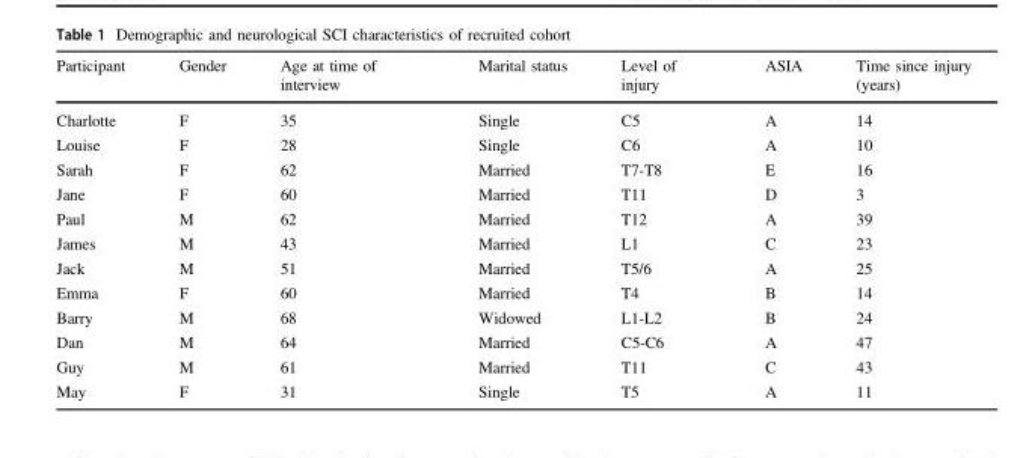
<table><thead><tr><td>Participant</td><td>Gender</td><td>Age at time of interview</td><td>Marital status</td><td>Level of injury</td><td>ASIA</td><td>Time since injury (years)</td></tr></thead><tbody><tr><td>Charlotte</td><td>F</td><td>35</td><td>Single</td><td>C5</td><td>A</td><td>14</td></tr><tr><td>Louise</td><td>F</td><td>28</td><td>Single</td><td>C6</td><td>A</td><td>10</td></tr><tr><td>Sarah</td><td>F</td><td>62</td><td>Married</td><td>T7-T8</td><td>E</td><td>16</td></tr><tr><td>Jane</td><td>F</td><td>60</td><td>Married</td><td>T11</td><td>D</td><td>3</td></tr><tr><td>Paul</td><td>M</td><td>62</td><td>Married</td><td>T12</td><td>A</td><td>39</td></tr><tr><td>James</td><td>M</td><td>43</td><td>Married</td><td>L1</td><td>C</td><td>23</td></tr><tr><td>Jack</td><td>M</td><td>51</td><td>Married</td><td>T5/6</td><td>A</td><td>25</td></tr><tr><td>Emma</td><td>F</td><td>60</td><td>Married</td><td>T4</td><td>B</td><td>14</td></tr><tr><td>Barry</td><td>M</td><td>68</td><td>Widowed</td><td>L1-L2</td><td>B</td><td>24</td></tr><tr><td>Dan</td><td>M</td><td>64</td><td>Married</td><td>C5-C6</td><td>A</td><td>47</td></tr><tr><td>Guy</td><td>M</td><td>61</td><td>Married</td><td>T11</td><td>C</td><td>43</td></tr><tr><td>May</td><td>F</td><td>31</td><td>Single</td><td>T5</td><td>A</td><td>11</td></tr></tbody></table>